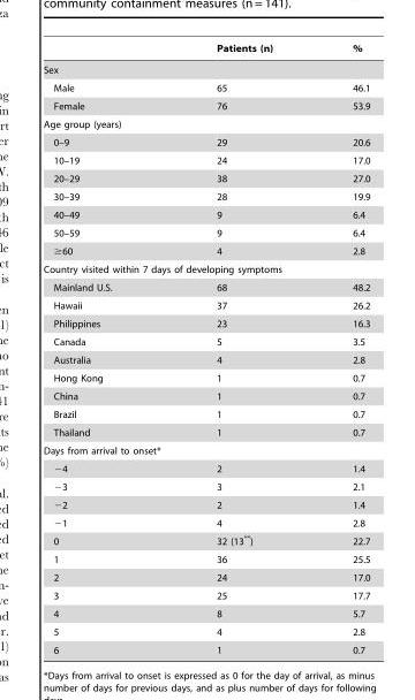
<table><thead><tr><td></td><td>Patients (n)</td><td>%</td></tr></thead><tbody><tr><td colspan="3">Sex</td></tr><tr><td>Male</td><td>65</td><td>46.1</td></tr><tr><td>Female</td><td>76</td><td>53.9</td></tr><tr><td colspan="3">Age group (years)</td></tr><tr><td>0–9</td><td>29</td><td>20.6</td></tr><tr><td>10–19</td><td>24</td><td>17.0</td></tr><tr><td>20–29</td><td>38</td><td>27.0</td></tr><tr><td>30–39</td><td>28</td><td>19.9</td></tr><tr><td>40–49</td><td>9</td><td>6.4</td></tr><tr><td>50–59</td><td>9</td><td>6.4</td></tr><tr><td>≥60</td><td>4</td><td>2.8</td></tr><tr><td colspan="3">Country visited within 7 days of developing symptoms</td></tr><tr><td>Mainland U.S.</td><td>68</td><td>48.2</td></tr><tr><td>Hawaii</td><td>37</td><td>26.2</td></tr><tr><td>Philippines</td><td>23</td><td>16.3</td></tr><tr><td>Canada</td><td>5</td><td>3.5</td></tr><tr><td>Australia</td><td>4</td><td>2.8</td></tr><tr><td>Hong Kong</td><td>1</td><td>0.7</td></tr><tr><td>China</td><td>1</td><td>0.7</td></tr><tr><td>Brazil</td><td>1</td><td>0.7</td></tr><tr><td>Thailand</td><td>1</td><td>0.7</td></tr><tr><td colspan="3">Days from arrival to onset*</td></tr><tr><td>−4</td><td>2</td><td>1.4</td></tr><tr><td>−3</td><td>3</td><td>2.1</td></tr><tr><td>−2</td><td>2</td><td>1.4</td></tr><tr><td>−1</td><td>4</td><td>2.8</td></tr><tr><td>0</td><td>32 (13**)</td><td>22.7</td></tr><tr><td>1</td><td>36</td><td>25.5</td></tr><tr><td>2</td><td>24</td><td>17.0</td></tr><tr><td>3</td><td>25</td><td>17.7</td></tr><tr><td>4</td><td>8</td><td>5.7</td></tr><tr><td>5</td><td>4</td><td>2.8</td></tr><tr><td>6</td><td>1</td><td>0.7</td></tr></tbody></table>